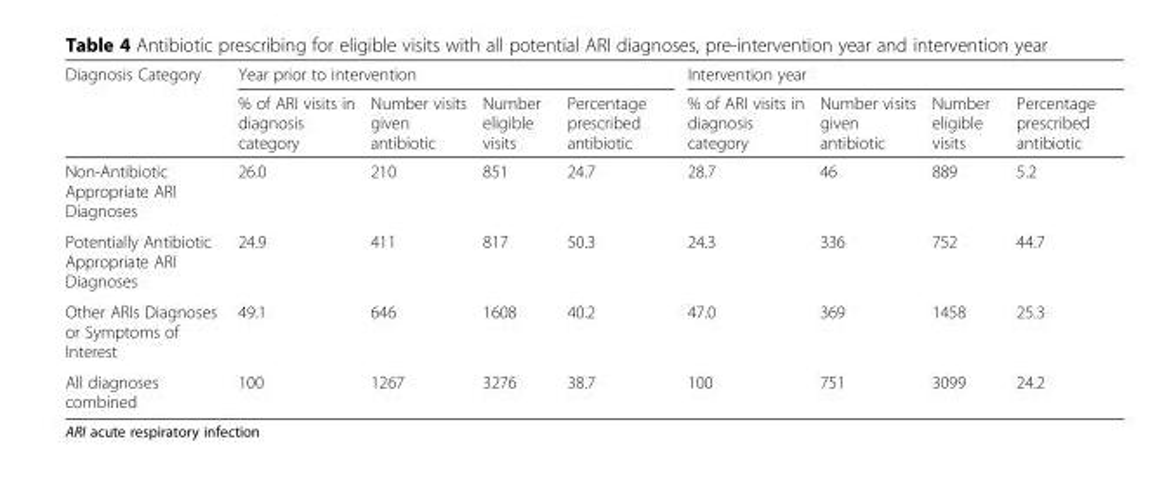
<table><thead><tr><td rowspan="2">Diagnosis Category</td><td colspan="4">Year prior to intervention</td><td colspan="4">Intervention year</td></tr><tr><td>% of ARI visits in diagnosis category</td><td>Number visits given antibiotic</td><td>Number eligible visits</td><td>Percentage prescribed antibiotic</td><td>% of ARI visits in diagnosis category</td><td>Number visits given antibiotic</td><td>Number eligible visits</td><td>Percentage prescribed antibiotic</td></tr></thead><tbody><tr><td>Non-Antibiotic Appropriate ARI Diagnoses</td><td>26.0</td><td>210</td><td>851</td><td>24.7</td><td>28.7</td><td>46</td><td>889</td><td>5.2</td></tr><tr><td>Potentially Antibiotic Appropriate ARI Diagnoses</td><td>24.9</td><td>411</td><td>817</td><td>50.3</td><td>24.3</td><td>336</td><td>752</td><td>44.7</td></tr><tr><td>Other ARIs Diagnoses or Symptoms of Interest</td><td>49.1</td><td>646</td><td>1608</td><td>40.2</td><td>47.0</td><td>369</td><td>1458</td><td>25.3</td></tr><tr><td>All diagnoses combined</td><td>100</td><td>1267</td><td>3276</td><td>38.7</td><td>100</td><td>751</td><td>3099</td><td>24.2</td></tr></tbody></table>